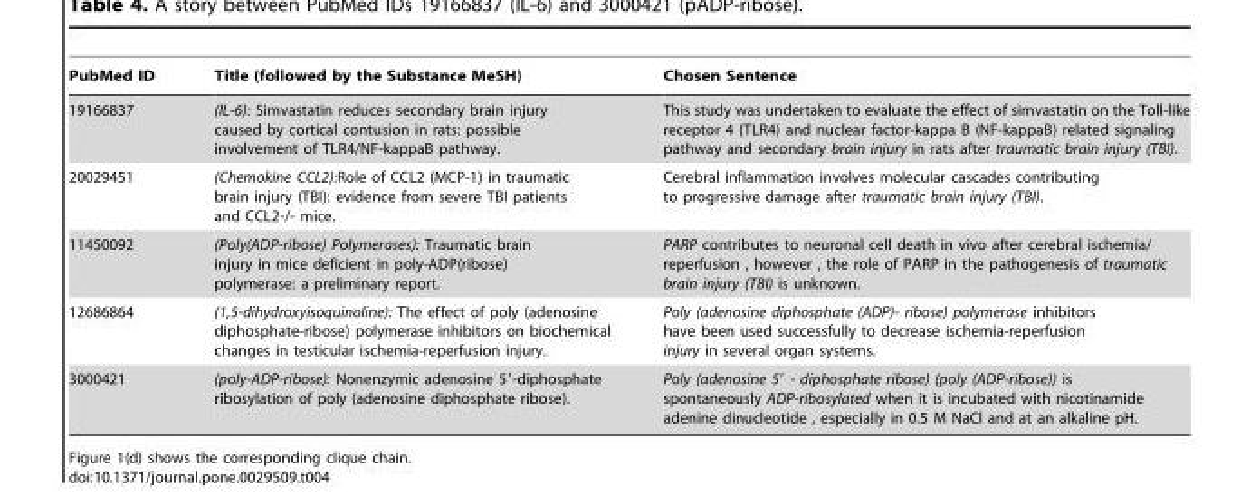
<table><thead><tr><td>PubMed ID</td><td>Title (followed by the Substance MeSH)</td><td>Chosen Sentence</td></tr></thead><tbody><tr><td>19166837</td><td>(IL-6): Simvastatin reduces secondary brain injury caused by cortical contusion in rats: possible involvement of TLR4/NF-kappaB pathway.</td><td>This study was undertaken to evaluate the effect of simvastatin on the Toll-like receptor 4 (TLR4) and nuclear factor-kappa B (NF-kappaB) related signaling pathway and secondary brain injury in rats after traumatic brain injury (TBI).</td></tr><tr><td>20029451</td><td>(Chemokine CCL2):Role of CCL2 (MCP-1) in traumatic brain injury (TBI): evidence from severe TBI patients and CCL2-/- mice.</td><td>Cerebral inflammation involves molecular cascades contributing to progressive damage after traumatic brain injury (TBI).</td></tr><tr><td>11450092</td><td>(Poly(ADP-ribose) Polymerases): Traumatic brain injury in mice deficient in poly-ADP(ribose) polymerase: a preliminary report.</td><td>PARP contributes to neuronal cell death in vivo after cerebral ischemia/ reperfusion , however , the role of PARP in the pathogenesis of traumatic brain injury (TBI) is unknown.</td></tr><tr><td>12686864</td><td>(1,5-dihydroxyisoquinoline): The effect of poly (adenosine diphosphate-ribose) polymerase inhibitors on biochemical changes in testicular ischemia-reperfusion injury.</td><td>Poly (adenosine diphosphate (ADP)- ribose) polymerase inhibitors have been used successfully to decrease ischemia-reperfusion injury in several organ systems.</td></tr><tr><td>3000421</td><td>(poly-ADP-ribose): Nonenzymic adenosine 5′-diphosphate ribosylation of poly (adenosine diphosphate ribose).</td><td>Poly (adenosine 5′ - diphosphate ribose) (poly (ADP-ribose)) is spontaneously ADP-ribosylated when it is incubated with nicotinamide adenine dinucleotide , especially in 0.5 M NaCl and at an alkaline pH.</td></tr></tbody></table>